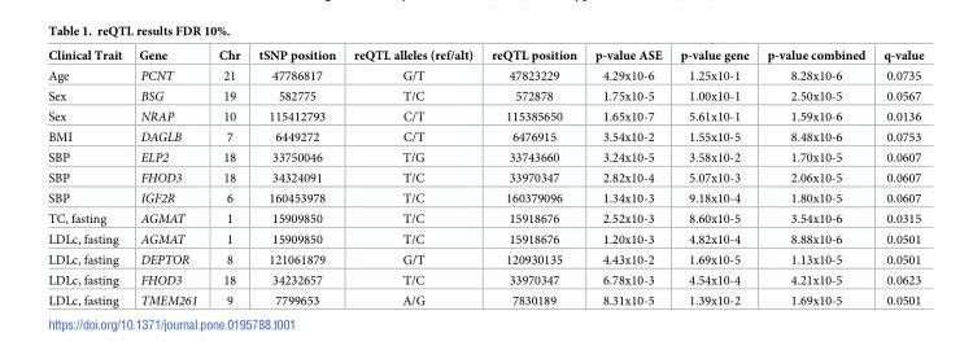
<table><thead><tr><td>Clinical Trait</td><td>Gene</td><td>Chr</td><td>tSNP position</td><td>reQTL alleles (ref/alt)</td><td>reQTL position</td><td>p-value ASE</td><td>p-value gene</td><td>p-value combined</td><td>q-value</td></tr></thead><tbody><tr><td>Age</td><td>PCNT</td><td>21</td><td>47786817</td><td>G/T</td><td>47823229</td><td>4.29x10-6</td><td>1.25x10-1</td><td>8.28x10-6</td><td>0.0735</td></tr><tr><td>Sex</td><td>BSG</td><td>19</td><td>582775</td><td>T/C</td><td>572878</td><td>1.75x10-5</td><td>1.00x10-1</td><td>2.50x10-5</td><td>0.0567</td></tr><tr><td>Sex</td><td>NRAP</td><td>10</td><td>115412793</td><td>C/T</td><td>115385650</td><td>1.65x10-7</td><td>5.61x10-1</td><td>1.59x10-6</td><td>0.0136</td></tr><tr><td>BMI</td><td>DAGLB</td><td>7</td><td>6449272</td><td>C/T</td><td>6476915</td><td>3.54x10-2</td><td>1.55x10-5</td><td>8.48x10-6</td><td>0.0753</td></tr><tr><td>SBP</td><td>ELP2</td><td>18</td><td>33750046</td><td>T/G</td><td>33743660</td><td>3.24x10-5</td><td>3.58x10-2</td><td>1.70x10-5</td><td>0.0607</td></tr><tr><td>SBP</td><td>FHOD3</td><td>18</td><td>34324091</td><td>T/C</td><td>33970347</td><td>2.82x10-4</td><td>5.07x10-3</td><td>2.06x10-5</td><td>0.0607</td></tr><tr><td>SBP</td><td>IGF2R</td><td>6</td><td>160453978</td><td>T/C</td><td>160379096</td><td>1.34x10-3</td><td>9.18x10-4</td><td>1.80x10-5</td><td>0.0607</td></tr><tr><td>TC, fasting</td><td>AGMAT</td><td>1</td><td>15909850</td><td>T/C</td><td>15918676</td><td>2.52x10-3</td><td>8.60x10-5</td><td>3.54x10-6</td><td>0.0315</td></tr><tr><td>LDLc, fasting</td><td>AGMAT</td><td>1</td><td>15909850</td><td>T/C</td><td>15918676</td><td>1.20x10-3</td><td>4.82x10-4</td><td>8.88x10-6</td><td>0.0501</td></tr><tr><td>LDLc, fasting</td><td>DEPTOR</td><td>8</td><td>121061879</td><td>G/T</td><td>120930135</td><td>4.43x10-2</td><td>1.69x10-5</td><td>1.13x10-5</td><td>0.0501</td></tr><tr><td>LDLc, fasting</td><td>FHOD3</td><td>18</td><td>34232657</td><td>T/C</td><td>33970347</td><td>6.78x10-3</td><td>4.54x10-4</td><td>4.21x10-5</td><td>0.0623</td></tr><tr><td>LDLc, fasting</td><td>TMEM261</td><td>9</td><td>7799653</td><td>A/G</td><td>7830189</td><td>8.31x10-5</td><td>1.39x10-2</td><td>1.69x10-5</td><td>0.0501</td></tr></tbody></table>